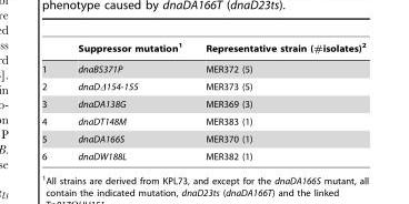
<table><thead><tr><td></td><td>Suppressor mutation<sup>1</sup></td><td>Representative strain (#isolates)<sup>2</sup></td></tr></thead><tbody><tr><td>1</td><td>dnaBS371P</td><td>MER372 (5)</td></tr><tr><td>2</td><td>dnaDΔ154-155</td><td>MER373 (5)</td></tr><tr><td>3</td><td>dnaDA138G</td><td>MER369 (3)</td></tr><tr><td>4</td><td>dnaDT148M</td><td>MER383 (1)</td></tr><tr><td>5</td><td>dnaDA166S</td><td>MER370 (1)</td></tr><tr><td>6</td><td>dnaDW188L</td><td>MER382 (1)</td></tr></tbody></table>